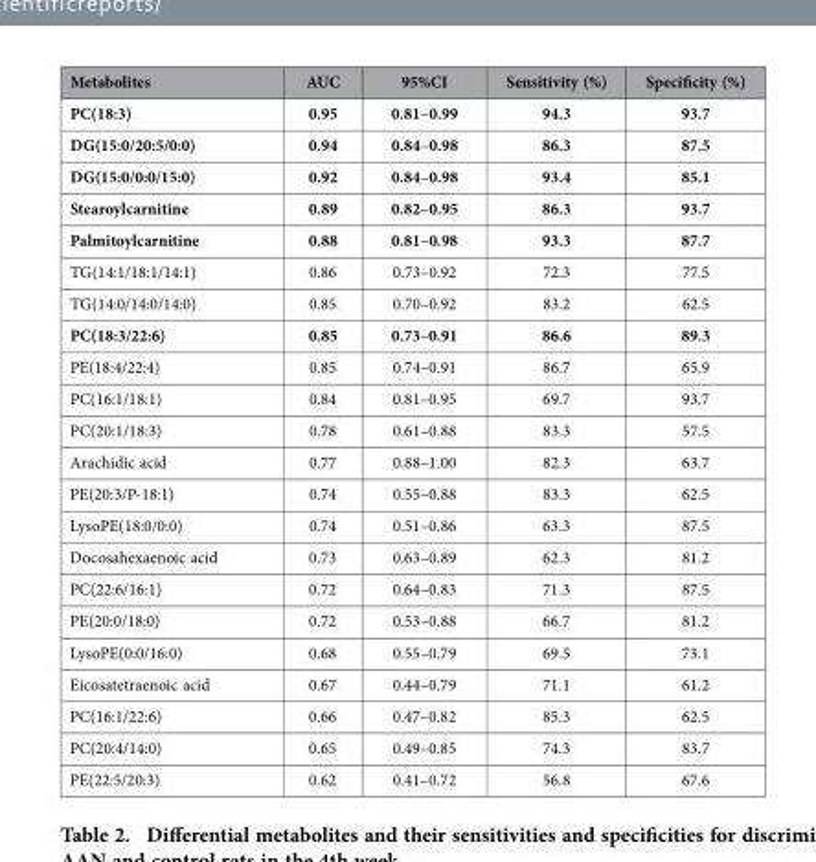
<table><thead><tr><td>Metabolites</td><td>AUC</td><td>95%CI</td><td>Sensitivity (%)</td><td>Specificity (%)</td></tr></thead><tbody><tr><td>PC(18:3)</td><td>0.95</td><td>0.81–0.99</td><td>94.3</td><td>93.7</td></tr><tr><td>DG(15:0/20:5/0:0)</td><td>0.94</td><td>0.84–0.98</td><td>86.3</td><td>87.5</td></tr><tr><td>DG(15:0/0:0/15:0)</td><td>0.92</td><td>0.84–0.98</td><td>93.4</td><td>85.1</td></tr><tr><td>Stearoylcarnitine</td><td>0.89</td><td>0.82–0.95</td><td>86.3</td><td>93.7</td></tr><tr><td>Palmitoylcarnitine</td><td>0.88</td><td>0.81–0.98</td><td>93.3</td><td>87.7</td></tr><tr><td>TG(14:1/18:1/14:1)</td><td>0.86</td><td>0.73–0.92</td><td>72.3</td><td>77.5</td></tr><tr><td>TG(14:0/14:0/14:0)</td><td>0.85</td><td>0.70–0.92</td><td>83.2</td><td>62.5</td></tr><tr><td>PC(18:3/22:6)</td><td>0.85</td><td>0.73–0.91</td><td>86.6</td><td>89.3</td></tr><tr><td>PE(18:4/22:4)</td><td>0.85</td><td>0.74–0.91</td><td>86.7</td><td>65.9</td></tr><tr><td>PC(16:1/18:1)</td><td>0.84</td><td>0.81–0.95</td><td>69.7</td><td>93.7</td></tr><tr><td>PC(20:1/18:3)</td><td>0.78</td><td>0.61–0.88</td><td>83.3</td><td>57.5</td></tr><tr><td>Arachidic acid</td><td>0.77</td><td>0.88–1.00</td><td>82.3</td><td>63.7</td></tr><tr><td>PE(20:3/P-18:1)</td><td>0.74</td><td>0.55–0.88</td><td>83.3</td><td>62.5</td></tr><tr><td>LysoPE(18:0/0:0)</td><td>0.74</td><td>0.51–0.86</td><td>63.3</td><td>87.5</td></tr><tr><td>Docosahexaenoic acid</td><td>0.73</td><td>0.63–0.89</td><td>62.3</td><td>81.2</td></tr><tr><td>PC(22:6/16:1)</td><td>0.72</td><td>0.64–0.83</td><td>71.3</td><td>87.5</td></tr><tr><td>PE(20:0/18:0)</td><td>0.72</td><td>0.53–0.88</td><td>66.7</td><td>81.2</td></tr><tr><td>LysoPE(0:0/16:0)</td><td>0.68</td><td>0.55–0.79</td><td>69.5</td><td>73.1</td></tr><tr><td>Eicosatetraenoic acid</td><td>0.67</td><td>0.44–0.79</td><td>71.1</td><td>61.2</td></tr><tr><td>PC(16:1/22:6)</td><td>0.66</td><td>0.47–0.82</td><td>85.3</td><td>62.5</td></tr><tr><td>PC(20:4/14:0)</td><td>0.65</td><td>0.49–0.85</td><td>74.3</td><td>83.7</td></tr><tr><td>PE(22:5/20:3)</td><td>0.62</td><td>0.41–0.72</td><td>56.8</td><td>67.6</td></tr></tbody></table>